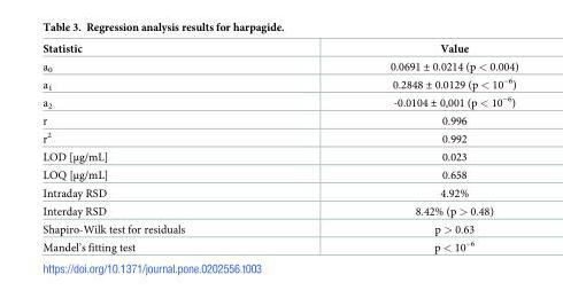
<table><thead><tr><td>Statistic</td><td>Value</td></tr></thead><tbody><tr><td>a<sub>0</sub></td><td>0.0691 ± 0.0214 (p &lt; 0.004)</td></tr><tr><td>a<sub>1</sub></td><td>0.2848 ± 0.0129 (p &lt; 10<sup>−6</sup>)</td></tr><tr><td>a<sub>2</sub></td><td>-0.0104 ± 0,001 (p &lt; 10<sup>−6</sup>)</td></tr><tr><td>r</td><td>0.996</td></tr><tr><td>r<sup>2</sup></td><td>0.992</td></tr><tr><td>LOD [μg/mL]</td><td>0.023</td></tr><tr><td>LOQ [μg/mL]</td><td>0.658</td></tr><tr><td>Intraday RSD</td><td>4.92%</td></tr><tr><td>Interday RSD</td><td>8.42% (p &gt; 0.48)</td></tr><tr><td>Shapiro-Wilk test for residuals</td><td>p &gt; 0.63</td></tr><tr><td>Mandel’s fitting test</td><td>p &lt; 10<sup>−6</sup></td></tr></tbody></table>